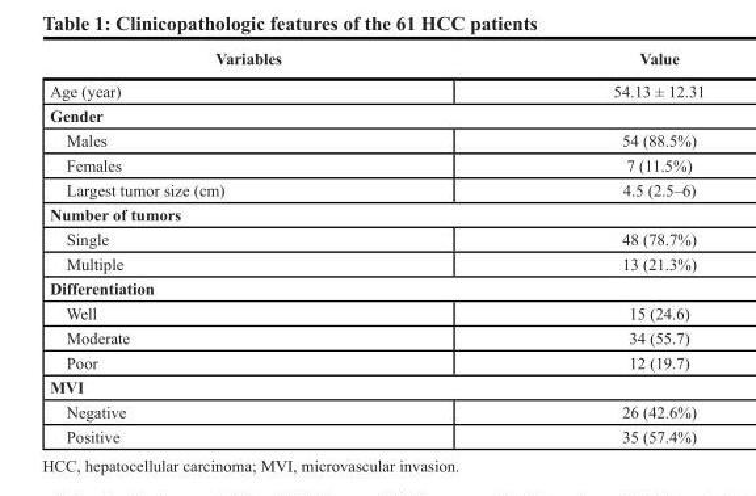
<table><thead><tr><td>Variables</td><td>Value</td></tr></thead><tbody><tr><td>Age (year)</td><td>54.13 ± 12.31</td></tr><tr><td colspan="2">Gender</td></tr><tr><td>Males</td><td>54 (88.5%)</td></tr><tr><td>Females</td><td>7 (11.5%)</td></tr><tr><td>Largest tumor size (cm)</td><td>4.5 (2.5–6)</td></tr><tr><td colspan="2">Number of tumors</td></tr><tr><td>Single</td><td>48 (78.7%)</td></tr><tr><td>Multiple</td><td>13 (21.3%)</td></tr><tr><td colspan="2">Differentiation</td></tr><tr><td>Well</td><td>15 (24.6)</td></tr><tr><td>Moderate</td><td>34 (55.7)</td></tr><tr><td>Poor</td><td>12 (19.7)</td></tr><tr><td colspan="2">MVI</td></tr><tr><td>Negative</td><td>26 (42.6%)</td></tr><tr><td>Positive</td><td>35 (57.4%)</td></tr></tbody></table>